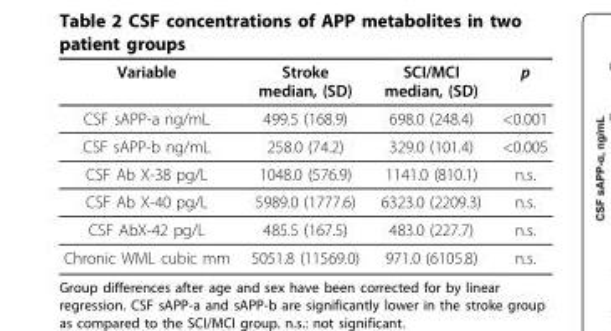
<table><thead><tr><td>Variable</td><td>Stroke median, (SD)</td><td>SCI/MCI median, (SD)</td><td>p</td></tr></thead><tbody><tr><td>CSF sAPP-α ng/mL</td><td>499.5 (168.9)</td><td>698.0 (248.4)</td><td>&lt;0.001</td></tr><tr><td>CSF sAPP-β ng/mL</td><td>258.0 (74.2)</td><td>329.0 (101.4)</td><td>&lt;0.005</td></tr><tr><td>CSF Aβ X-38 pg/L</td><td>1048.0 (576.9)</td><td>1141.0 (810.1)</td><td>n.s.</td></tr><tr><td>CSF Aβ X-40 pg/L</td><td>5989.0 (1777.6)</td><td>6323.0 (2209.3)</td><td>n.s.</td></tr><tr><td>CSF AβX-42 pg/L</td><td>485.5 (167.5)</td><td>483.0 (227.7)</td><td>n.s.</td></tr><tr><td>Chronic WML cubic mm</td><td>5051.8 (11569.0)</td><td>971.0 (6105.8)</td><td>n.s.</td></tr></tbody></table>